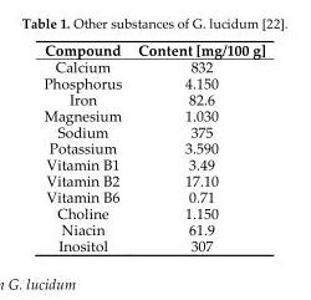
<table><thead><tr><td>Compound</td><td>Content [mg/100 g]</td></tr></thead><tbody><tr><td>Calcium</td><td>832</td></tr><tr><td>Phosphorus</td><td>4.150</td></tr><tr><td>Iron</td><td>82.6</td></tr><tr><td>Magnesium</td><td>1.030</td></tr><tr><td>Sodium</td><td>375</td></tr><tr><td>Potassium</td><td>3.590</td></tr><tr><td>Vitamin B1</td><td>3.49</td></tr><tr><td>Vitamin B2</td><td>17.10</td></tr><tr><td>Vitamin B6</td><td>0.71</td></tr><tr><td>Choline</td><td>1.150</td></tr><tr><td>Niacin</td><td>61.9</td></tr><tr><td>Inositol</td><td>307</td></tr></tbody></table>